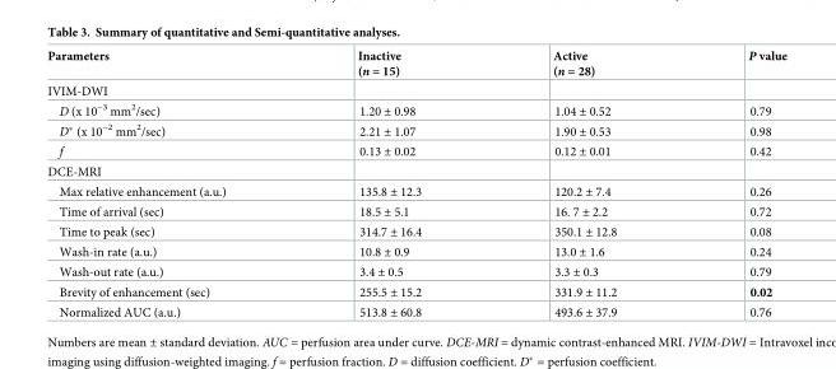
<table><thead><tr><td>Parameters</td><td>Inactive (n = 15)</td><td>Active (n = 28)</td><td>P value</td></tr></thead><tbody><tr><td colspan="4">IVIM-DWI</td></tr><tr><td>D (x 10<sup>−3</sup> mm<sup>2</sup>/sec)</td><td>1.20 ± 0.98</td><td>1.04 ± 0.52</td><td>0.79</td></tr><tr><td>D* (x 10<sup>−2</sup> mm<sup>2</sup>/sec)</td><td>2.21 ± 1.07</td><td>1.90 ± 0.53</td><td>0.98</td></tr><tr><td>f</td><td>0.13 ± 0.02</td><td>0.12 ± 0.01</td><td>0.42</td></tr><tr><td colspan="4">DCE-MRI</td></tr><tr><td>Max relative enhancement (a.u.)</td><td>135.8 ± 12.3</td><td>120.2 ± 7.4</td><td>0.26</td></tr><tr><td>Time of arrival (sec)</td><td>18.5 ± 5.1</td><td>16. 7 ± 2.2</td><td>0.72</td></tr><tr><td>Time to peak (sec)</td><td>314.7 ± 16.4</td><td>350.1 ± 12.8</td><td>0.08</td></tr><tr><td>Wash-in rate (a.u.)</td><td>10.8 ± 0.9</td><td>13.0 ± 1.6</td><td>0.24</td></tr><tr><td>Wash-out rate (a.u.)</td><td>3.4 ± 0.5</td><td>3.3 ± 0.3</td><td>0.79</td></tr><tr><td>Brevity of enhancement (sec)</td><td>255.5 ± 15.2</td><td>331.9 ± 11.2</td><td>0.02</td></tr><tr><td>Normalized AUC (a.u.)</td><td>513.8 ± 60.8</td><td>493.6 ± 37.9</td><td>0.76</td></tr></tbody></table>